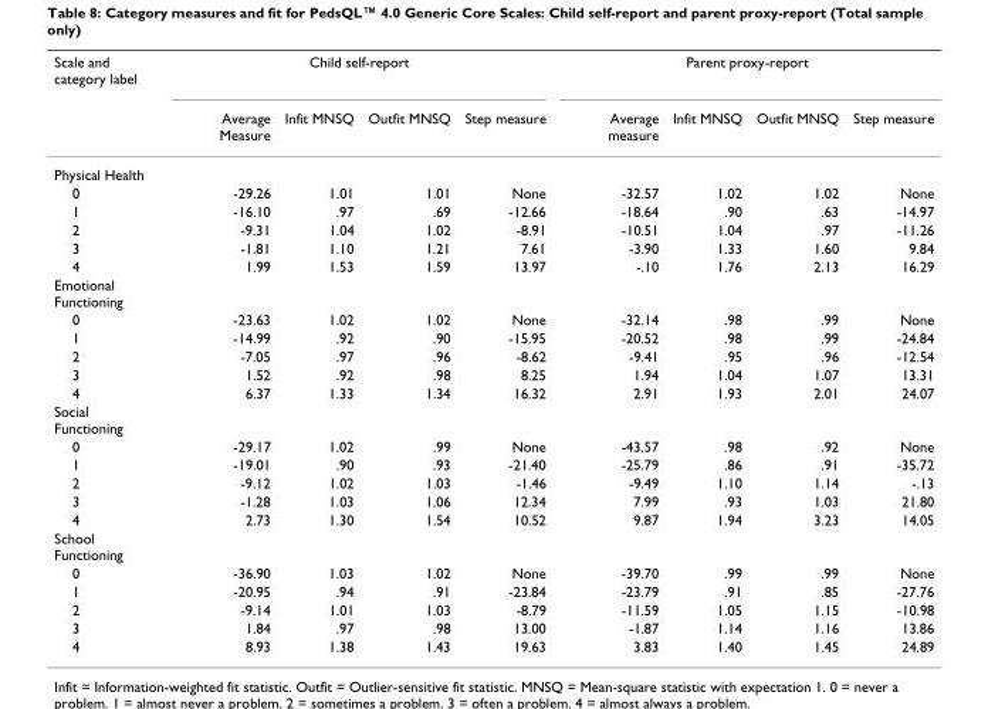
<table><thead><tr><td rowspan="2">Scale and category label</td><td colspan="4">Child self-report</td><td colspan="4">Parent proxy-report</td></tr><tr><td>Average Measure</td><td>Infit MNSQ</td><td>Outfit MNSQ</td><td>Step measure</td><td>Average measure</td><td>Infit MNSQ</td><td>Outfit MNSQ</td><td>Step measure</td></tr></thead><tbody><tr><td colspan="9">Physical Health</td></tr><tr><td>0</td><td>-29.26</td><td>1.01</td><td>1.01</td><td>None</td><td>-32.57</td><td>1.02</td><td>1.02</td><td>None</td></tr><tr><td>1</td><td>-16.10</td><td>.97</td><td>.69</td><td>-12.66</td><td>-18.64</td><td>.90</td><td>.63</td><td>-14.97</td></tr><tr><td>2</td><td>-9.31</td><td>1.04</td><td>1.02</td><td>-8.91</td><td>-10.51</td><td>1.04</td><td>.97</td><td>-11.26</td></tr><tr><td>3</td><td>-1.81</td><td>1.10</td><td>1.21</td><td>7.61</td><td>-3.90</td><td>1.33</td><td>1.60</td><td>9.84</td></tr><tr><td>4</td><td>1.99</td><td>1.53</td><td>1.59</td><td>13.97</td><td>-.10</td><td>1.76</td><td>2.13</td><td>16.29</td></tr><tr><td colspan="9">Emotional Functioning</td></tr><tr><td>0</td><td>-23.63</td><td>1.02</td><td>1.02</td><td>None</td><td>-32.14</td><td>.98</td><td>.99</td><td>None</td></tr><tr><td>1</td><td>-14.99</td><td>.92</td><td>.90</td><td>-15.95</td><td>-20.52</td><td>.98</td><td>.99</td><td>-24.84</td></tr><tr><td>2</td><td>-7.05</td><td>.97</td><td>.96</td><td>-8.62</td><td>-9.41</td><td>.95</td><td>.96</td><td>-12.54</td></tr><tr><td>3</td><td>1.52</td><td>.92</td><td>.98</td><td>8.25</td><td>1.94</td><td>1.04</td><td>1.07</td><td>13.31</td></tr><tr><td>4</td><td>6.37</td><td>1.33</td><td>1.34</td><td>16.32</td><td>2.91</td><td>1.93</td><td>2.01</td><td>24.07</td></tr><tr><td colspan="9">Social Functioning</td></tr><tr><td>0</td><td>-29.17</td><td>1.02</td><td>.99</td><td>None</td><td>-43.57</td><td>.98</td><td>.92</td><td>None</td></tr><tr><td>1</td><td>-19.01</td><td>.90</td><td>.93</td><td>-21.40</td><td>-25.79</td><td>.86</td><td>.91</td><td>-35.72</td></tr><tr><td>2</td><td>-9.12</td><td>1.02</td><td>1.03</td><td>-1.46</td><td>-9.49</td><td>1.10</td><td>1.14</td><td>-.13</td></tr><tr><td>3</td><td>-1.28</td><td>1.03</td><td>1.06</td><td>12.34</td><td>7.99</td><td>.93</td><td>1.03</td><td>21.80</td></tr><tr><td>4</td><td>2.73</td><td>1.30</td><td>1.54</td><td>10.52</td><td>9.87</td><td>1.94</td><td>3.23</td><td>14.05</td></tr><tr><td colspan="9">School Functioning</td></tr><tr><td>0</td><td>-36.90</td><td>1.03</td><td>1.02</td><td>None</td><td>-39.70</td><td>.99</td><td>.99</td><td>None</td></tr><tr><td>1</td><td>-20.95</td><td>.94</td><td>.91</td><td>-23.84</td><td>-23.79</td><td>.91</td><td>.85</td><td>-27.76</td></tr><tr><td>2</td><td>-9.14</td><td>1.01</td><td>1.03</td><td>-8.79</td><td>-11.59</td><td>1.05</td><td>1.15</td><td>-10.98</td></tr><tr><td>3</td><td>1.84</td><td>.97</td><td>.98</td><td>13.00</td><td>-1.87</td><td>1.14</td><td>1.16</td><td>13.86</td></tr><tr><td>4</td><td>8.93</td><td>1.38</td><td>1.43</td><td>19.63</td><td>3.83</td><td>1.40</td><td>1.45</td><td>24.89</td></tr></tbody></table>